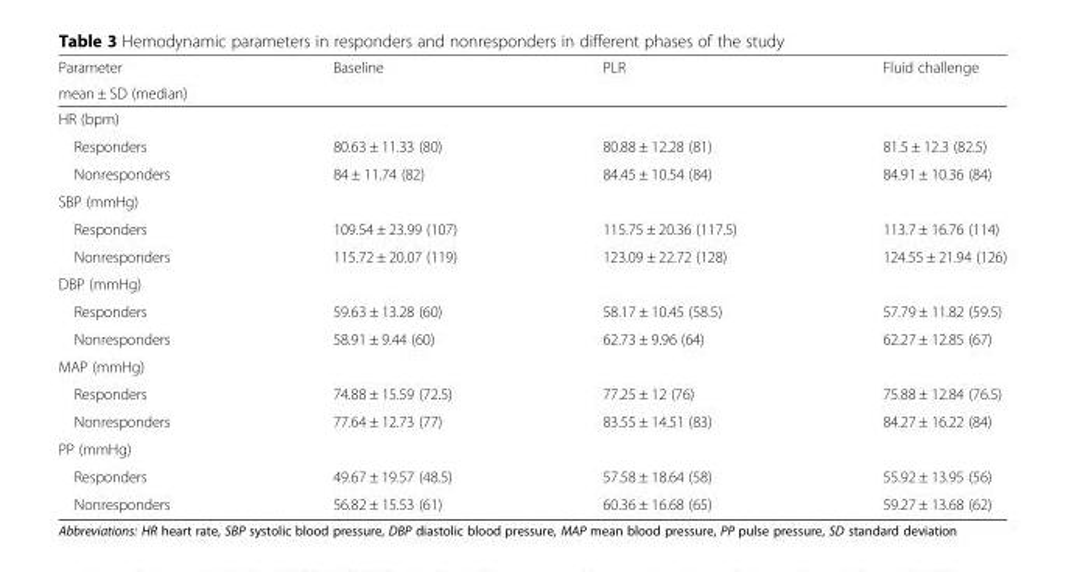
<table><thead><tr><td rowspan="2">Parameter mean ± SD (median)</td><td rowspan="2">Baseline</td><td rowspan="2">PLR</td><td rowspan="2">Fluid challenge</td></tr><tr></tr></thead><tbody><tr><td colspan="4">HR (bpm)</td></tr><tr><td>Responders</td><td>80.63 ± 11.33 (80)</td><td>80.88 ± 12.28 (81)</td><td>81.5 ± 12.3 (82.5)</td></tr><tr><td>Nonresponders</td><td>84 ± 11.74 (82)</td><td>84.45 ± 10.54 (84)</td><td>84.91 ± 10.36 (84)</td></tr><tr><td colspan="4">SBP (mmHg)</td></tr><tr><td>Responders</td><td>109.54 ± 23.99 (107)</td><td>115.75 ± 20.36 (117.5)</td><td>113.7 ± 16.76 (114)</td></tr><tr><td>Nonresponders</td><td>115.72 ± 20.07 (119)</td><td>123.09 ± 22.72 (128)</td><td>124.55 ± 21.94 (126)</td></tr><tr><td colspan="4">DBP (mmHg)</td></tr><tr><td>Responders</td><td>59.63 ± 13.28 (60)</td><td>58.17 ± 10.45 (58.5)</td><td>57.79 ± 11.82 (59.5)</td></tr><tr><td>Nonresponders</td><td>58.91 ± 9.44 (60)</td><td>62.73 ± 9.96 (64)</td><td>62.27 ± 12.85 (67)</td></tr><tr><td colspan="4">MAP (mmHg)</td></tr><tr><td>Responders</td><td>74.88 ± 15.59 (72.5)</td><td>77.25 ± 12 (76)</td><td>75.88 ± 12.84 (76.5)</td></tr><tr><td>Nonresponders</td><td>77.64 ± 12.73 (77)</td><td>83.55 ± 14.51 (83)</td><td>84.27 ± 16.22 (84)</td></tr><tr><td colspan="4">PP (mmHg)</td></tr><tr><td>Responders</td><td>49.67 ± 19.57 (48.5)</td><td>57.58 ± 18.64 (58)</td><td>55.92 ± 13.95 (56)</td></tr><tr><td>Nonresponders</td><td>56.82 ± 15.53 (61)</td><td>60.36 ± 16.68 (65)</td><td>59.27 ± 13.68 (62)</td></tr></tbody></table>